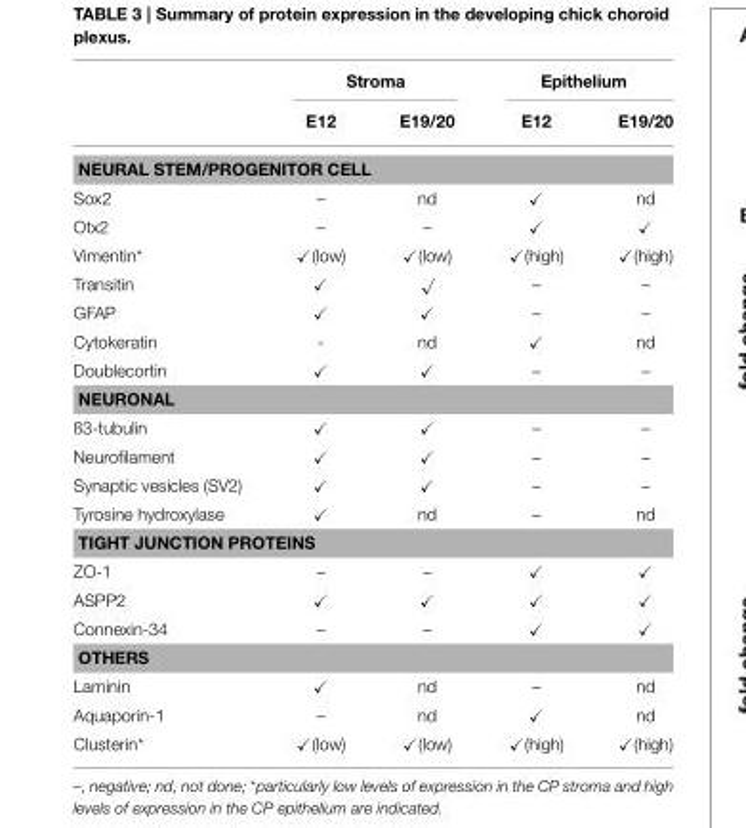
<table><thead><tr><td rowspan="2"></td><td colspan="2">Stroma</td><td colspan="2">Epithelium</td></tr><tr><td>E12</td><td>E19/20</td><td>E12</td><td>E19/20</td></tr></thead><tbody><tr><td colspan="5">NEURAL STEM/PROGENITOR CELL</td></tr><tr><td>Sox2</td><td>–</td><td>nd</td><td>✓</td><td>nd</td></tr><tr><td>Otx2</td><td>–</td><td>–</td><td>✓</td><td>✓</td></tr><tr><td>Vimentin*</td><td>✓(low)</td><td>✓(low)</td><td>✓(high)</td><td>✓(high)</td></tr><tr><td>Transitin</td><td>✓</td><td>√</td><td>–</td><td>–</td></tr><tr><td>GFAP</td><td>✓</td><td>✓</td><td>–</td><td>–</td></tr><tr><td>Cytokeratin</td><td>-</td><td>nd</td><td>✓</td><td>nd</td></tr><tr><td>Doublecortin</td><td>✓</td><td>✓</td><td>–</td><td>–</td></tr><tr><td colspan="5">NEURONAL</td></tr><tr><td>ß3-tubulin</td><td>✓</td><td>✓</td><td>–</td><td>–</td></tr><tr><td>Neurofilament</td><td>✓</td><td>✓</td><td>–</td><td>–</td></tr><tr><td>Synaptic vesicles (SV2)</td><td>✓</td><td>✓</td><td>–</td><td>–</td></tr><tr><td>Tyrosine hydroxylase</td><td>✓</td><td>nd</td><td>–</td><td>nd</td></tr><tr><td colspan="5">TIGHT JUNCTION PROTEINS</td></tr><tr><td>ZO-1</td><td>–</td><td>–</td><td>✓</td><td>✓</td></tr><tr><td>ASPP2</td><td>✓</td><td>✓</td><td>✓</td><td>✓</td></tr><tr><td>Connexin-34</td><td>–</td><td>–</td><td>✓</td><td>✓</td></tr><tr><td colspan="5">OTHERS</td></tr><tr><td>Laminin</td><td>✓</td><td>nd</td><td>–</td><td>nd</td></tr><tr><td>Aquaporin-1</td><td>–</td><td>nd</td><td>✓</td><td>nd</td></tr><tr><td>Clusterin*</td><td>✓(low)</td><td>✓(low)</td><td>✓(high)</td><td>✓(high)</td></tr></tbody></table>